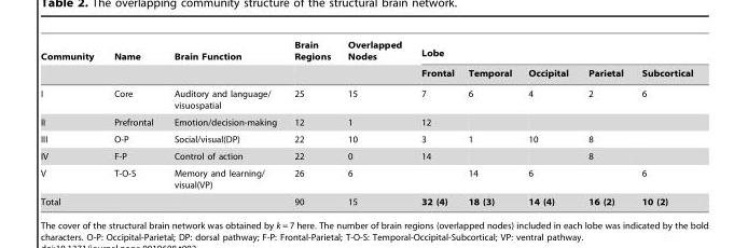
<table><thead><tr><td rowspan="2">Community</td><td rowspan="2">Name</td><td rowspan="2">Brain Function</td><td rowspan="2">Brain Regions</td><td rowspan="2">Overlapped Nodes</td><td colspan="5">Lobe</td></tr><tr><td>Frontal</td><td>Temporal</td><td>Occipital</td><td>Parietal</td><td>Subcortical</td></tr></thead><tbody><tr><td>I</td><td>Core</td><td>Auditory and language/ visuospatial</td><td>25</td><td>15</td><td>7</td><td>6</td><td>4</td><td>2</td><td>6</td></tr><tr><td>II</td><td>Prefrontal</td><td>Emotion/decision-making</td><td>12</td><td>1</td><td>12</td><td></td><td></td><td></td><td></td></tr><tr><td>III</td><td>O-P</td><td>Social/visual(DP)</td><td>22</td><td>10</td><td>3</td><td>1</td><td>10</td><td>8</td><td></td></tr><tr><td>IV</td><td>F-P</td><td>Control of action</td><td>22</td><td>0</td><td>14</td><td></td><td></td><td>8</td><td></td></tr><tr><td>V</td><td>T-O-S</td><td>Memory and learning/ visual(VP)</td><td>26</td><td>6</td><td></td><td>14</td><td>6</td><td></td><td>6</td></tr><tr><td>Total</td><td></td><td></td><td>90</td><td>15</td><td>32 (4)</td><td>18 (3)</td><td>14 (4)</td><td>16 (2)</td><td>10 (2)</td></tr></tbody></table>